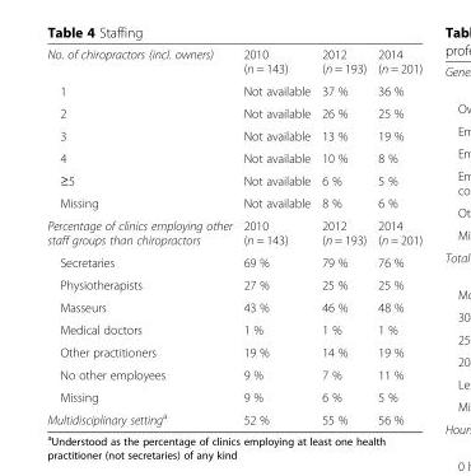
<table><tbody><tr><td>No. of chiropractors (incl. owners)</td><td>2010 (n = 143)</td><td>2012 (n = 193)</td><td>2014 (n = 201)</td></tr><tr><td>1</td><td>Not available</td><td>37 %</td><td>36 %</td></tr><tr><td>2</td><td>Not available</td><td>26 %</td><td>25 %</td></tr><tr><td>3</td><td>Not available</td><td>13 %</td><td>19 %</td></tr><tr><td>4</td><td>Not available</td><td>10 %</td><td>8 %</td></tr><tr><td>≥5</td><td>Not available</td><td>6 %</td><td>5 %</td></tr><tr><td>Missing</td><td>Not available</td><td>8 %</td><td>6 %</td></tr><tr><td>Percentage of clinics employing other staff groups than chiropractors</td><td>2010 (n = 143)</td><td>2012 (n = 193)</td><td>2014 (n = 201)</td></tr><tr><td>Secretaries</td><td>69 %</td><td>79 %</td><td>76 %</td></tr><tr><td>Physiotherapists</td><td>27 %</td><td>25 %</td><td>25 %</td></tr><tr><td>Masseurs</td><td>43 %</td><td>46 %</td><td>48 %</td></tr><tr><td>Medical doctors</td><td>1 %</td><td>1 %</td><td>1 %</td></tr><tr><td>Other practitioners</td><td>19 %</td><td>14 %</td><td>19 %</td></tr><tr><td>No other employees</td><td>9 %</td><td>7 %</td><td>11 %</td></tr><tr><td>Missing</td><td>9 %</td><td>6 %</td><td>5 %</td></tr><tr><td>Multidisciplinary setting<sup>a</sup></td><td>52 %</td><td>55 %</td><td>56 %</td></tr></tbody></table>